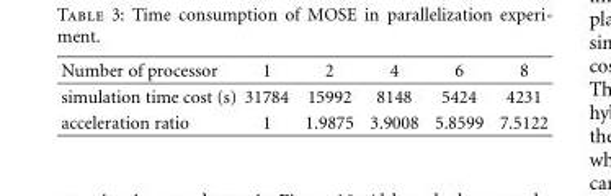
<table><thead><tr><td>Number of processor</td><td>1</td><td>2</td><td>4</td><td>6</td><td>8</td></tr></thead><tbody><tr><td>simulation time cost (s)</td><td>31784</td><td>15992</td><td>8148</td><td>5424</td><td>4231</td></tr><tr><td>acceleration ratio</td><td>1</td><td>1.9875</td><td>3.9008</td><td>5.8599</td><td>7.5122</td></tr></tbody></table>